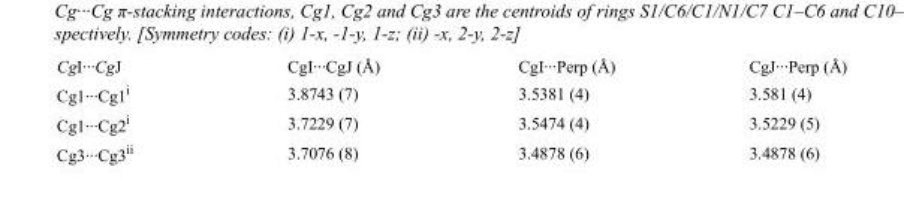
<table><tbody><tr><td>CgI···CgJ</td><td>CgI···CgJ (Å)</td><td>CgI···Perp (Å)</td><td>CgJ···Perp (Å)</td></tr><tr><td>Cg1···Cg1<sup>i</sup></td><td>3.8743 (7)</td><td>3.5381 (4)</td><td>3.581 (4)</td></tr><tr><td>Cg1···Cg2<sup>i</sup></td><td>3.7229 (7)</td><td>3.5474 (4)</td><td>3.5229 (5)</td></tr><tr><td>Cg3···Cg3<sup>ii</sup></td><td>3.7076 (8)</td><td>3.4878 (6)</td><td>3.4878 (6)</td></tr></tbody></table>